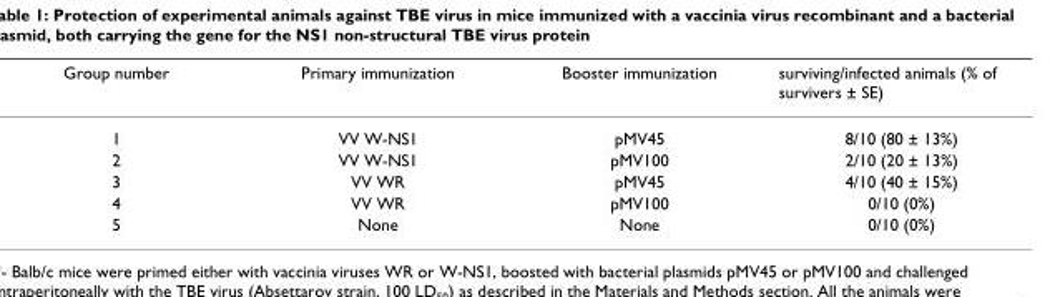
<table><thead><tr><td>Group number</td><td>Primary immunization</td><td>Booster immunization</td><td>surviving/infected animals (% of survivers ± SE)</td></tr></thead><tbody><tr><td>1</td><td>VV W-NS1</td><td>pMV45</td><td>8/10 (80 ± 13%)</td></tr><tr><td>2</td><td>VV W-NS1</td><td>pMV100</td><td>2/10 (20 ± 13%)</td></tr><tr><td>3</td><td>VV WR</td><td>pMV45</td><td>4/10 (40 ± 15%)</td></tr><tr><td>4</td><td>VV WR</td><td>pMV100</td><td>0/10 (0%)</td></tr><tr><td>5</td><td>None</td><td>None</td><td>0/10 (0%)</td></tr></tbody></table>